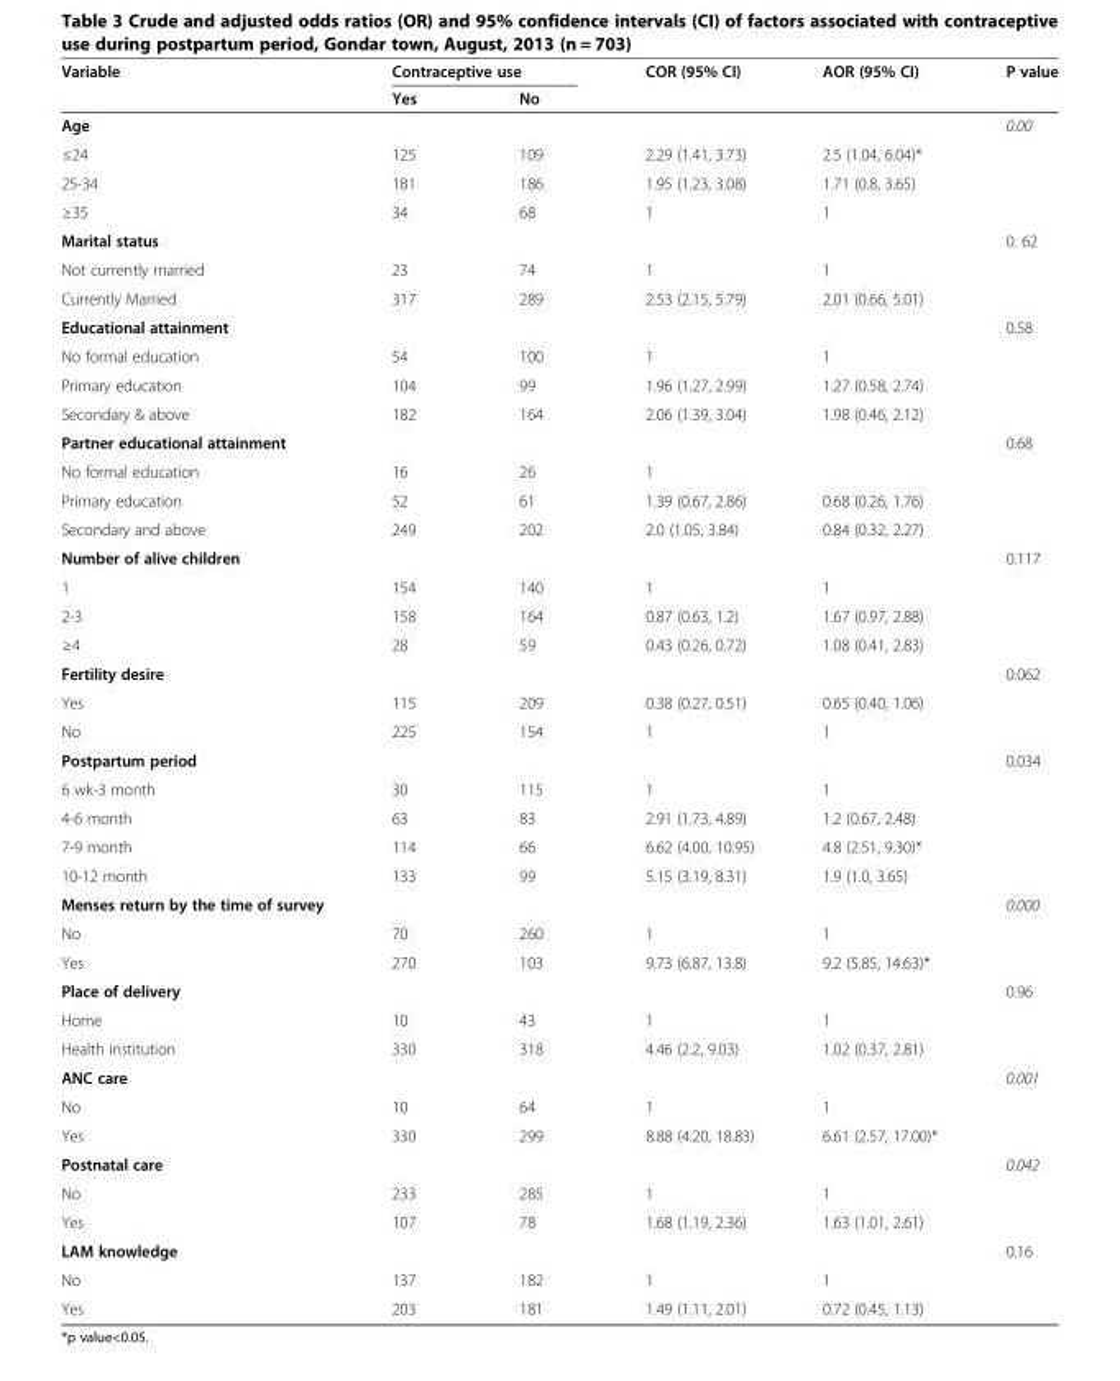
<table><thead><tr><td rowspan="2">Variable</td><td colspan="2">Contraceptive use</td><td rowspan="2">COR (95% CI)</td><td rowspan="2">AOR (95% CI)</td><td rowspan="2">P value</td></tr><tr><td>Yes</td><td>No</td></tr></thead><tbody><tr><td>Age</td><td></td><td></td><td></td><td></td><td>0.00</td></tr><tr><td>≤24</td><td>125</td><td>109</td><td>2.29 (1.41, 3.73)</td><td>2.5 (1.04, 6.04)*</td><td></td></tr><tr><td>25-34</td><td>181</td><td>186</td><td>1.95 (1.23, 3.08)</td><td>1.71 (0.8, 3.65)</td><td></td></tr><tr><td>≥35</td><td>34</td><td>68</td><td>1</td><td>1</td><td></td></tr><tr><td>Marital status</td><td></td><td></td><td></td><td></td><td>0. 62</td></tr><tr><td>Not currently married</td><td>23</td><td>74</td><td>1</td><td>1</td><td></td></tr><tr><td>Currently Married</td><td>317</td><td>289</td><td>2.53 (2.15, 5.79)</td><td>2.01 (0.66, 5.01)</td><td></td></tr><tr><td>Educational attainment</td><td></td><td></td><td></td><td></td><td>0.58</td></tr><tr><td>No formal education</td><td>54</td><td>100</td><td>1</td><td>1</td><td></td></tr><tr><td>Primary education</td><td>104</td><td>99</td><td>1.96 (1.27, 2.99)</td><td>1.27 (0.58, 2.74)</td><td></td></tr><tr><td>Secondary &amp; above</td><td>182</td><td>164</td><td>2.06 (1.39, 3.04)</td><td>1.98 (0.46, 2.12)</td><td></td></tr><tr><td>Partner educational attainment</td><td></td><td></td><td></td><td></td><td>0.68</td></tr><tr><td>No formal education</td><td>16</td><td>26</td><td>1</td><td></td><td></td></tr><tr><td>Primary education</td><td>52</td><td>61</td><td>1.39 (0.67, 2.86)</td><td>0.68 (0.26, 1.76)</td><td></td></tr><tr><td>Secondary and above</td><td>249</td><td>202</td><td>2.0 (1.05, 3.84)</td><td>0.84 (0.32, 2.27)</td><td></td></tr><tr><td>Number of alive children</td><td></td><td></td><td></td><td></td><td>0.117</td></tr><tr><td>1</td><td>154</td><td>140</td><td>1</td><td>1</td><td></td></tr><tr><td>2-3</td><td>158</td><td>164</td><td>0.87 (0.63, 1.2)</td><td>1.67 (0.97, 2.88)</td><td></td></tr><tr><td>≥4</td><td>28</td><td>59</td><td>0.43 (0.26, 0.72)</td><td>1.08 (0.41, 2.83)</td><td></td></tr><tr><td>Fertility desire</td><td></td><td></td><td></td><td></td><td>0.062</td></tr><tr><td>Yes</td><td>115</td><td>209</td><td>0.38 (0.27, 0.51)</td><td>0.65 (0.40, 1.06)</td><td></td></tr><tr><td>No</td><td>225</td><td>154</td><td>1</td><td>1</td><td></td></tr><tr><td>Postpartum period</td><td></td><td></td><td></td><td></td><td>0.034</td></tr><tr><td>6 wk-3 month</td><td>30</td><td>115</td><td>1</td><td>1</td><td></td></tr><tr><td>4-6 month</td><td>63</td><td>83</td><td>2.91 (1.73, 4.89)</td><td>1.2 (0.67, 2.48)</td><td></td></tr><tr><td>7-9 month</td><td>114</td><td>66</td><td>6.62 (4.00, 10.95)</td><td>4.8 (2.51, 9.30)*</td><td></td></tr><tr><td>10-12 month</td><td>133</td><td>99</td><td>5.15 (3.19, 8.31)</td><td>1.9 (1.0, 3.65)</td><td></td></tr><tr><td>Menses return by the time of survey</td><td></td><td></td><td></td><td></td><td>0.000</td></tr><tr><td>No</td><td>70</td><td>260</td><td>1</td><td>1</td><td></td></tr><tr><td>Yes</td><td>270</td><td>103</td><td>9.73 (6.87, 13.8)</td><td>9.2 (5.85, 14.63)*</td><td></td></tr><tr><td>Place of delivery</td><td></td><td></td><td></td><td></td><td>0.96</td></tr><tr><td>Home</td><td>10</td><td>43</td><td>1</td><td>1</td><td></td></tr><tr><td>Health institution</td><td>330</td><td>318</td><td>4.46 (2.2, 9.03)</td><td>1.02 (0.37, 2.81)</td><td></td></tr><tr><td>ANC care</td><td></td><td></td><td></td><td></td><td>0.001</td></tr><tr><td>No</td><td>10</td><td>64</td><td>1</td><td>1</td><td></td></tr><tr><td>Yes</td><td>330</td><td>299</td><td>8.88 (4.20, 18.83)</td><td>6.61 (2.57, 17.00)*</td><td></td></tr><tr><td>Postnatal care</td><td></td><td></td><td></td><td></td><td>0.042</td></tr><tr><td>No</td><td>233</td><td>285</td><td>1</td><td>1</td><td></td></tr><tr><td>Yes</td><td>107</td><td>78</td><td>1.68 (1.19, 2.36)</td><td>1.63 (1.01, 2.61)</td><td></td></tr><tr><td>LAM knowledge</td><td></td><td></td><td></td><td></td><td>0.16</td></tr><tr><td>No</td><td>137</td><td>182</td><td>1</td><td>1</td><td></td></tr><tr><td>Yes</td><td>203</td><td>181</td><td>1.49 (1.11, 2.01)</td><td>0.72 (0.45, 1.13)</td><td></td></tr></tbody></table>